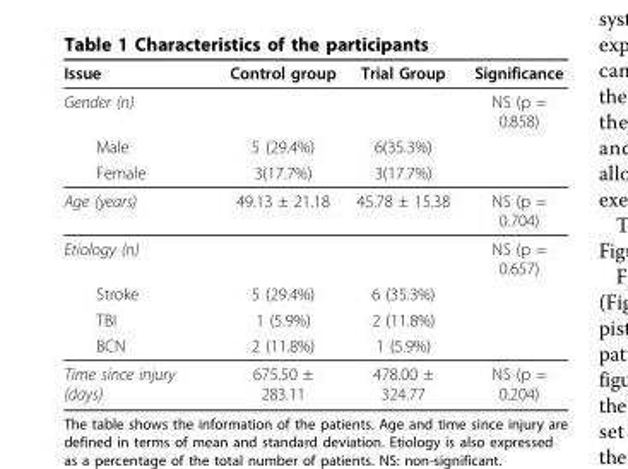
<table><thead><tr><td>Issue</td><td>Control group</td><td>Trial Group</td><td>Significance</td></tr></thead><tbody><tr><td>Gender (n)</td><td></td><td></td><td>NS (p = 0.858)</td></tr><tr><td>Male</td><td>5 (29.4%)</td><td>6(35.3%)</td><td></td></tr><tr><td>Female</td><td>3(17.7%)</td><td>3(17.7%)</td><td></td></tr><tr><td>Age (years)</td><td>49.13 ± 21.18</td><td>45.78 ± 15.38</td><td>NS (p = 0.704)</td></tr><tr><td>Etiology (n)</td><td></td><td></td><td>NS (p = 0.657)</td></tr><tr><td>Stroke</td><td>5 (29.4%)</td><td>6 (35.3%)</td><td></td></tr><tr><td>TBI</td><td>1 (5.9%)</td><td>2 (11.8%)</td><td></td></tr><tr><td>BCN</td><td>2 (11.8%)</td><td>1 (5.9%)</td><td></td></tr><tr><td>Time since injury (days)</td><td>675.50 ± 283.11</td><td>478.00 ± 324.77</td><td>NS (p = 0.204)</td></tr></tbody></table>